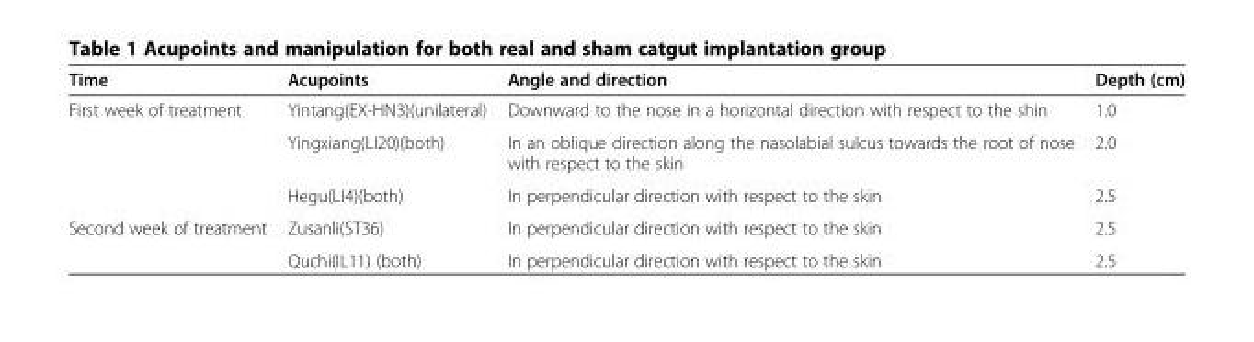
<table><thead><tr><td>Time</td><td>Acupoints</td><td>Angle and direction</td><td>Depth (cm)</td></tr></thead><tbody><tr><td rowspan="3">First week of treatment</td><td>Yintang(EX-HN3)(unilateral)</td><td>Downward to the nose in a horizontal direction with respect to the shin</td><td>1.0</td></tr><tr><td>Yingxiang(LI20)(both)</td><td>In an oblique direction along the nasolabial sulcus towards the root of nose with respect to the skin</td><td>2.0</td></tr><tr><td>Hegu(LI4)(both)</td><td>In perpendicular direction with respect to the skin</td><td>2.5</td></tr><tr><td rowspan="2">Second week of treatment</td><td>Zusanli(ST36)</td><td>In perpendicular direction with respect to the skin</td><td>2.5</td></tr><tr><td>Quchi(IL11) (both)</td><td>In perpendicular direction with respect to the skin</td><td>2.5</td></tr></tbody></table>